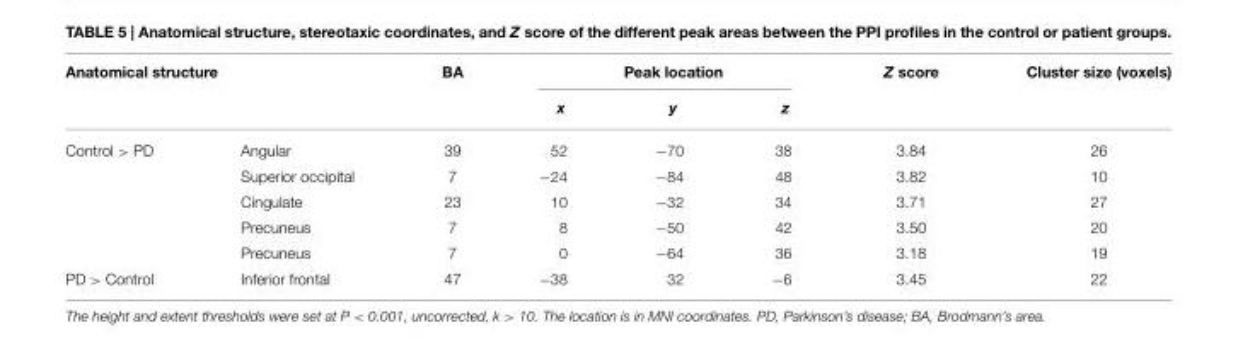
<table><thead><tr><td colspan="2">Anatomical structure</td><td rowspan="2">BA</td><td colspan="3">Peak location</td><td rowspan="2">Z score</td><td rowspan="2">Cluster size (voxels)</td></tr><tr><td></td><td></td><td>x</td><td>y</td><td>z</td></tr></thead><tbody><tr><td rowspan="5">Control &gt; PD</td><td>Angular</td><td>39</td><td>52</td><td>−70</td><td>38</td><td>3.84</td><td>26</td></tr><tr><td>Superior occipital</td><td>7</td><td>−24</td><td>−84</td><td>48</td><td>3.82</td><td>10</td></tr><tr><td>Cingulate</td><td>23</td><td>10</td><td>−32</td><td>34</td><td>3.71</td><td>27</td></tr><tr><td>Precuneus</td><td>7</td><td>8</td><td>−50</td><td>42</td><td>3.50</td><td>20</td></tr><tr><td>Precuneus</td><td>7</td><td>0</td><td>−64</td><td>36</td><td>3.18</td><td>19</td></tr><tr><td>PD &gt; Control</td><td>Inferior frontal</td><td>47</td><td>−38</td><td>32</td><td>−6</td><td>3.45</td><td>22</td></tr></tbody></table>